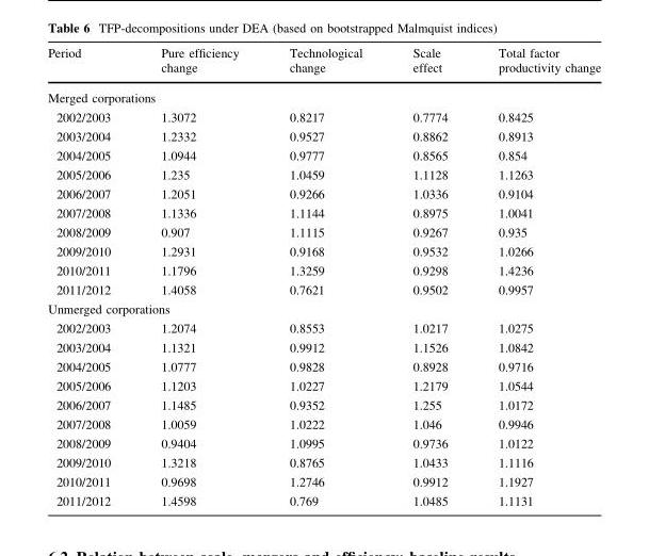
<table><thead><tr><td>Period</td><td>Pure efficiency change</td><td>Technological change</td><td>Scale effect</td><td>Total factor productivity change</td></tr></thead><tbody><tr><td colspan="5">Merged corporations</td></tr><tr><td>2002/2003</td><td>1.3072</td><td>0.8217</td><td>0.7774</td><td>0.8425</td></tr><tr><td>2003/2004</td><td>1.2332</td><td>0.9527</td><td>0.8862</td><td>0.8913</td></tr><tr><td>2004/2005</td><td>1.0944</td><td>0.9777</td><td>0.8565</td><td>0.854</td></tr><tr><td>2005/2006</td><td>1.235</td><td>1.0459</td><td>1.1128</td><td>1.1263</td></tr><tr><td>2006/2007</td><td>1.2051</td><td>0.9266</td><td>1.0336</td><td>0.9104</td></tr><tr><td>2007/2008</td><td>1.1336</td><td>1.1144</td><td>0.8975</td><td>1.0041</td></tr><tr><td>2008/2009</td><td>0.907</td><td>1.1115</td><td>0.9267</td><td>0.935</td></tr><tr><td>2009/2010</td><td>1.2931</td><td>0.9168</td><td>0.9532</td><td>1.0266</td></tr><tr><td>2010/2011</td><td>1.1796</td><td>1.3259</td><td>0.9298</td><td>1.4236</td></tr><tr><td>2011/2012</td><td>1.4058</td><td>0.7621</td><td>0.9502</td><td>0.9957</td></tr><tr><td colspan="5">Unmerged corporations</td></tr><tr><td>2002/2003</td><td>1.2074</td><td>0.8553</td><td>1.0217</td><td>1.0275</td></tr><tr><td>2003/2004</td><td>1.1321</td><td>0.9912</td><td>1.1526</td><td>1.0842</td></tr><tr><td>2004/2005</td><td>1.0777</td><td>0.9828</td><td>0.8928</td><td>0.9716</td></tr><tr><td>2005/2006</td><td>1.1203</td><td>1.0227</td><td>1.2179</td><td>1.0544</td></tr><tr><td>2006/2007</td><td>1.1485</td><td>0.9352</td><td>1.255</td><td>1.0172</td></tr><tr><td>2007/2008</td><td>1.0059</td><td>1.0222</td><td>1.046</td><td>0.9946</td></tr><tr><td>2008/2009</td><td>0.9404</td><td>1.0995</td><td>0.9736</td><td>1.0122</td></tr><tr><td>2009/2010</td><td>1.3218</td><td>0.8765</td><td>1.0433</td><td>1.1116</td></tr><tr><td>2010/2011</td><td>0.9698</td><td>1.2746</td><td>0.9912</td><td>1.1927</td></tr><tr><td>2011/2012</td><td>1.4598</td><td>0.769</td><td>1.0485</td><td>1.1131</td></tr></tbody></table>